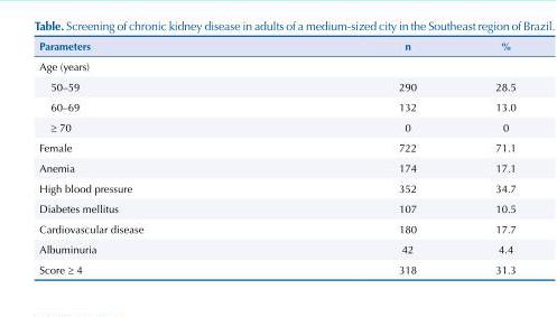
<table><thead><tr><td>Parameters</td><td>n</td><td>%</td></tr></thead><tbody><tr><td colspan="3">Age (years)</td></tr><tr><td>50–59</td><td>290</td><td>28.5</td></tr><tr><td>60–69</td><td>132</td><td>13.0</td></tr><tr><td>≥ 70</td><td>0</td><td>0</td></tr><tr><td>Female</td><td>722</td><td>71.1</td></tr><tr><td>Anemia</td><td>174</td><td>17.1</td></tr><tr><td>High blood pressure</td><td>352</td><td>34.7</td></tr><tr><td>Diabetes mellitus</td><td>107</td><td>10.5</td></tr><tr><td>Cardiovascular disease</td><td>180</td><td>17.7</td></tr><tr><td>Albuminuria</td><td>42</td><td>4.4</td></tr><tr><td>Score ≥ 4</td><td>318</td><td>31.3</td></tr></tbody></table>